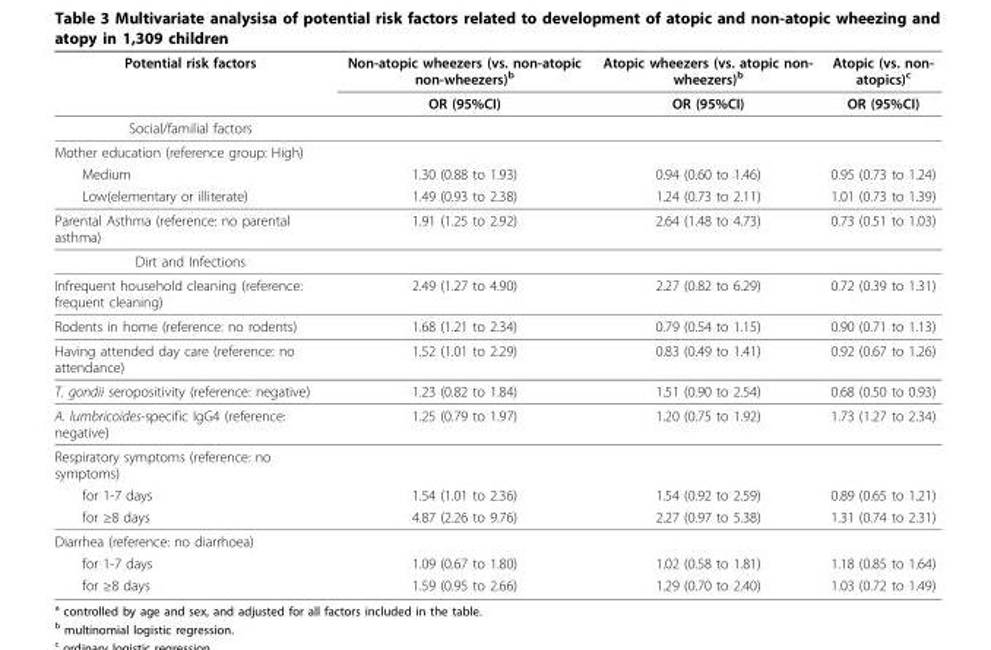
<table><thead><tr><td rowspan="2">Potential risk factors</td><td rowspan="2">Non-atopic wheezers (vs. non-atopic non-wheezers)b OR (95%CI)</td><td rowspan="2">Atopic wheezers (vs. atopic non- wheezers)b OR (95%CI)</td><td rowspan="2">Atopic (vs. non- atopics)c OR (95%CI)</td></tr><tr></tr></thead><tbody><tr><td colspan="4">Social/familial factors</td></tr><tr><td colspan="4">Mother education (reference group: High)</td></tr><tr><td>Medium</td><td>1.30 (0.88 to 1.93)</td><td>0.94 (0.60 to 1.46)</td><td>0.95 (0.73 to 1.24)</td></tr><tr><td>Low(elementary or illiterate)</td><td>1.49 (0.93 to 2.38)</td><td>1.24 (0.73 to 2.11)</td><td>1.01 (0.73 to 1.39)</td></tr><tr><td>Parental Asthma (reference: no parental asthma)</td><td>1.91 (1.25 to 2.92)</td><td>2.64 (1.48 to 4.73)</td><td>0.73 (0.51 to 1.03)</td></tr><tr><td colspan="4">Dirt and Infections</td></tr><tr><td>Infrequent household cleaning (reference: frequent cleaning)</td><td>2.49 (1.27 to 4.90)</td><td>2.27 (0.82 to 6.29)</td><td>0.72 (0.39 to 1.31)</td></tr><tr><td>Rodents in home (reference: no rodents)</td><td>1.68 (1.21 to 2.34)</td><td>0.79 (0.54 to 1.15)</td><td>0.90 (0.71 to 1.13)</td></tr><tr><td>Having attended day care (reference: no attendance)</td><td>1.52 (1.01 to 2.29)</td><td>0.83 (0.49 to 1.41)</td><td>0.92 (0.67 to 1.26)</td></tr><tr><td>T. gondii seropositivity (reference: negative)</td><td>1.23 (0.82 to 1.84)</td><td>1.51 (0.90 to 2.54)</td><td>0.68 (0.50 to 0.93)</td></tr><tr><td>A. lumbricoides-specific IgG4 (reference: negative)</td><td>1.25 (0.79 to 1.97)</td><td>1.20 (0.75 to 1.92)</td><td>1.73 (1.27 to 2.34)</td></tr><tr><td colspan="4">Respiratory symptoms (reference: no symptoms)</td></tr><tr><td>for 1-7 days</td><td>1.54 (1.01 to 2.36)</td><td>1.54 (0.92 to 2.59)</td><td>0.89 (0.65 to 1.21)</td></tr><tr><td>for ≥8 days</td><td>4.87 (2.26 to 9.76)</td><td>2.27 (0.97 to 5.38)</td><td>1.31 (0.74 to 2.31)</td></tr><tr><td colspan="4">Diarrhea (reference: no diarrhoea)</td></tr><tr><td>for 1-7 days</td><td>1.09 (0.67 to 1.80)</td><td>1.02 (0.58 to 1.81)</td><td>1.18 (0.85 to 1.64)</td></tr><tr><td>for ≥8 days</td><td>1.59 (0.95 to 2.66)</td><td>1.29 (0.70 to 2.40)</td><td>1.03 (0.72 to 1.49)</td></tr></tbody></table>